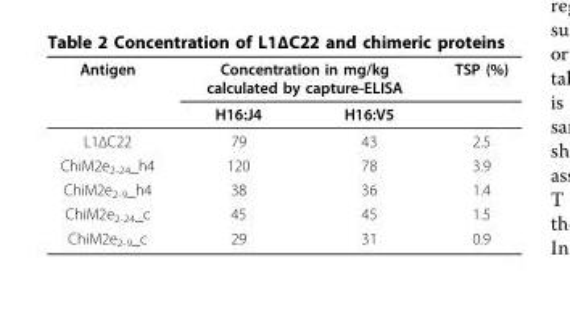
<table><thead><tr><td rowspan="2">Antigen</td><td colspan="2">Concentration in mg/kg calculated by capture-ELISA</td><td rowspan="2">TSP (%)</td></tr><tr><td>H16:J4</td><td>H16:V5</td></tr></thead><tbody><tr><td>L1ΔC22</td><td>79</td><td>43</td><td>2.5</td></tr><tr><td>ChiM2e2-24_h4</td><td>120</td><td>78</td><td>3.9</td></tr><tr><td>ChiM2e2-9_h4</td><td>38</td><td>36</td><td>1.4</td></tr><tr><td>ChiM2e2-24_c</td><td>45</td><td>45</td><td>1.5</td></tr><tr><td>ChiM2e2-9_c</td><td>29</td><td>31</td><td>0.9</td></tr></tbody></table>